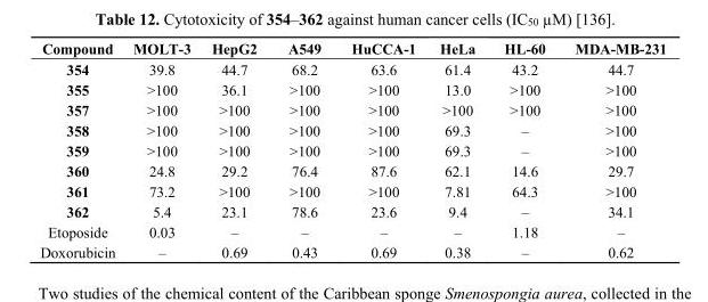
<table><thead><tr><td>Compound</td><td>MOLT-3</td><td>HepG2</td><td>A549</td><td>HuCCA-1</td><td>HeLa</td><td>HL-60</td><td>MDA-MB-231</td></tr></thead><tbody><tr><td>354</td><td>39.8</td><td>44.7</td><td>68.2</td><td>63.6</td><td>61.4</td><td>43.2</td><td>44.7</td></tr><tr><td>355</td><td>&gt;100</td><td>36.1</td><td>&gt;100</td><td>&gt;100</td><td>13.0</td><td>&gt;100</td><td>&gt;100</td></tr><tr><td>357</td><td>&gt;100</td><td>&gt;100</td><td>&gt;100</td><td>&gt;100</td><td>&gt;100</td><td>&gt;100</td><td>&gt;100</td></tr><tr><td>358</td><td>&gt;100</td><td>&gt;100</td><td>&gt;100</td><td>&gt;100</td><td>69.3</td><td>–</td><td>&gt;100</td></tr><tr><td>359</td><td>&gt;100</td><td>&gt;100</td><td>&gt;100</td><td>&gt;100</td><td>69.3</td><td>–</td><td>&gt;100</td></tr><tr><td>360</td><td>24.8</td><td>29.2</td><td>76.4</td><td>87.6</td><td>62.1</td><td>14.6</td><td>29.7</td></tr><tr><td>361</td><td>73.2</td><td>&gt;100</td><td>&gt;100</td><td>&gt;100</td><td>7.81</td><td>64.3</td><td>&gt;100</td></tr><tr><td>362</td><td>5.4</td><td>23.1</td><td>78.6</td><td>23.6</td><td>9.4</td><td>–</td><td>34.1</td></tr><tr><td>Etoposide</td><td>0.03</td><td>–</td><td>–</td><td>–</td><td>–</td><td>1.18</td><td>–</td></tr><tr><td>Doxorubicin</td><td>–</td><td>0.69</td><td>0.43</td><td>0.69</td><td>0.38</td><td>–</td><td>0.62</td></tr></tbody></table>